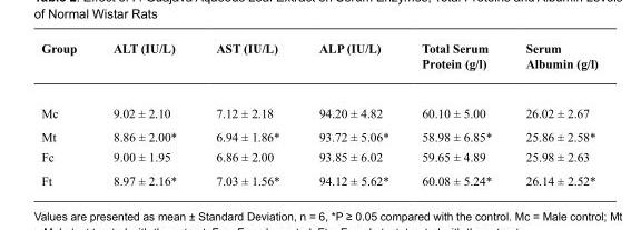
<table><thead><tr><td>Group</td><td>ALT (IU/L)</td><td>AST (IU/L)</td><td>ALP (IU/L)</td><td>Total Serum Protein (g/l)</td><td>Serum Albumin (g/l)</td></tr></thead><tbody><tr><td>Mc</td><td>9.02 ± 2.10</td><td>7.12 ± 2.18</td><td>94.20 ± 4.82</td><td>60.10 ± 5.00</td><td>26.02 ± 2.67</td></tr><tr><td>Mt</td><td>8.86 ± 2.00*</td><td>6.94 ± 1.86*</td><td>93.72 ± 5.06*</td><td>58.98 ± 6.85*</td><td>25.86 ± 2.58*</td></tr><tr><td>Fc</td><td>9.00 ± 1.95</td><td>6.86 ± 2.00</td><td>93.85 ± 6.02</td><td>59.65 ± 4.89</td><td>25.98 ± 2.63</td></tr><tr><td>Ft</td><td>8.97 ± 2.16*</td><td>7.03 ± 1.56*</td><td>94.12 ± 5.62*</td><td>60.08 ± 5.24*</td><td>26.14 ± 2.52*</td></tr></tbody></table>